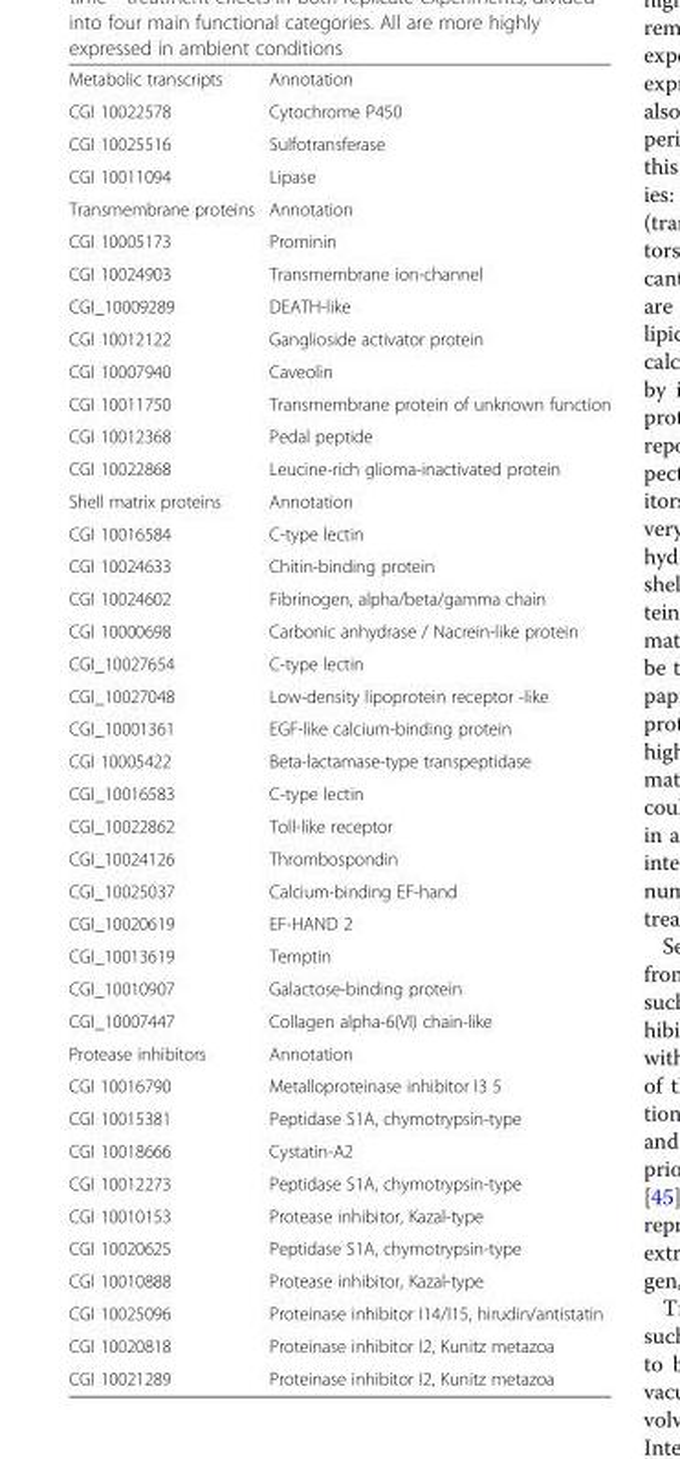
<table><tbody><tr><td>Metabolic transcripts</td><td>Annotation</td></tr><tr><td>CGI 10022578</td><td>Cytochrome P450</td></tr><tr><td>CGI 10025516</td><td>Sulfotransferase</td></tr><tr><td>CGI 10011094</td><td>Lipase</td></tr><tr><td>Transmembrane proteins</td><td>Annotation</td></tr><tr><td>CGI 10005173</td><td>Prominin</td></tr><tr><td>CGI 10024903</td><td>Transmembrane ion-channel</td></tr><tr><td>CGI_10009289</td><td>DEATH-like</td></tr><tr><td>CGI 10012122</td><td>Ganglioside activator protein</td></tr><tr><td>CGI 10007940</td><td>Caveolin</td></tr><tr><td>CGI 10011750</td><td>Transmembrane protein of unknown function</td></tr><tr><td>CGI 10012368</td><td>Pedal peptide</td></tr><tr><td>CGI 10022868</td><td>Leucine-rich glioma-inactivated protein</td></tr><tr><td>Shell matrix proteins</td><td>Annotation</td></tr><tr><td>CGI 10016584</td><td>C-type lectin</td></tr><tr><td>CGI 10024633</td><td>Chitin-binding protein</td></tr><tr><td>CGI 10024602</td><td>Fibrinogen, alpha/beta/gamma chain</td></tr><tr><td>CGI 10000698</td><td>Carbonic anhydrase / Nacrein-like protein</td></tr><tr><td>CGI_10027654</td><td>C-type lectin</td></tr><tr><td>CGI_10027048</td><td>Low-density lipoprotein receptor -like</td></tr><tr><td>CGI_10001361</td><td>EGF-like calcium-binding protein</td></tr><tr><td>CGI 10005422</td><td>Beta-lactamase-type transpeptidase</td></tr><tr><td>CGI_10016583</td><td>C-type lectin</td></tr><tr><td>CGI_10022862</td><td>Toll-like receptor</td></tr><tr><td>CGI_10024126</td><td>Thrombospondin</td></tr><tr><td>CGI_10025037</td><td>Calcium-binding EF-hand</td></tr><tr><td>CGI_10020619</td><td>EF-HAND 2</td></tr><tr><td>CGI_10013619</td><td>Temptin</td></tr><tr><td>CGI_10010907</td><td>Galactose-binding protein</td></tr><tr><td>CGI_10007447</td><td>Collagen alpha-6(VI) chain-like</td></tr><tr><td>Protease inhibitors</td><td>Annotation</td></tr><tr><td>CGI 10016790</td><td>Metalloproteinase inhibitor I3 5</td></tr><tr><td>CGI 10015381</td><td>Peptidase S1A, chymotrypsin-type</td></tr><tr><td>CGI 10018666</td><td>Cystatin-A2</td></tr><tr><td>CGI 10012273</td><td>Peptidase S1A, chymotrypsin-type</td></tr><tr><td>CGI 10010153</td><td>Protease inhibitor, Kazal-type</td></tr><tr><td>CGI 10020625</td><td>Peptidase S1A, chymotrypsin-type</td></tr><tr><td>CGI 10010888</td><td>Protease inhibitor, Kazal-type</td></tr><tr><td>CGI 10025096</td><td>Proteinase inhibitor I14/I15, hirudin/antistatin</td></tr><tr><td>CGI 10020818</td><td>Proteinase inhibitor I2, Kunitz metazoa</td></tr><tr><td>CGI 10021289</td><td>Proteinase inhibitor I2, Kunitz metazoa</td></tr></tbody></table>